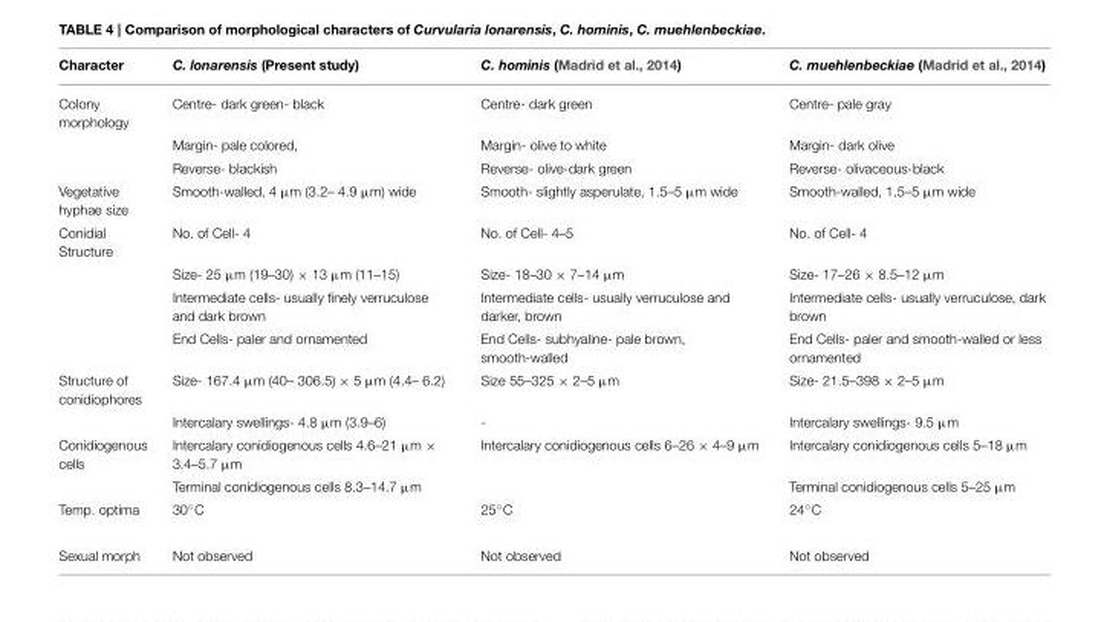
<table><thead><tr><td>Character</td><td>C. lonarensis (Present study)</td><td>C. hominis (Madrid et al., 2014)</td><td>C. muehlenbeckiae (Madrid et al., 2014)</td></tr></thead><tbody><tr><td rowspan="3">Colony morphology</td><td>Centre- dark green- black</td><td>Centre- dark green</td><td>Centre- pale gray</td></tr><tr><td>Margin- pale colored,</td><td>Margin- olive to white</td><td>Margin- dark olive</td></tr><tr><td>Reverse- blackish</td><td>Reverse- olive-dark green</td><td>Reverse- olivaceous-black</td></tr><tr><td>Vegetative hyphae size</td><td>Smooth-walled, 4 µm (3.2– 4.9 µm) wide</td><td>Smooth- slightly asperulate, 1.5–5 µm wide</td><td>Smooth-walled, 1.5–5 µm wide</td></tr><tr><td rowspan="4">Conidial Structure</td><td>No. of Cell- 4</td><td>No. of Cell- 4–5</td><td>No. of Cell- 4</td></tr><tr><td>Size- 25 µm (19–30) × 13 µm (11–15)</td><td>Size- 18–30 × 7–14 µm</td><td>Size- 17–26 × 8.5–12 µm</td></tr><tr><td>Intermediate cells- usually finely verruculose and dark brown</td><td>Intermediate cells- usually verruculose and darker, brown</td><td>Intermediate cells- usually verruculose, dark brown</td></tr><tr><td>End Cells- paler and ornamented</td><td>End Cells- subhyaline- pale brown, smooth-walled</td><td>End Cells- paler and smooth-walled or less ornamented</td></tr><tr><td rowspan="2">Structure of conidiophores</td><td>Size- 167.4 µm (40– 306.5) × 5 µm (4.4– 6.2)</td><td>Size 55–325 × 2–5 µm</td><td>Size- 21.5–398 × 2–5 µm</td></tr><tr><td>Intercalary swellings- 4.8 µm (3.9–6)</td><td>-</td><td>Intercalary swellings- 9.5 µm</td></tr><tr><td rowspan="2">Conidiogenous cells</td><td>Intercalary conidiogenous cells 4.6–21 µm × 3.4–5.7 µm</td><td>Intercalary conidiogenous cells 6–26 × 4–9 µm</td><td>Intercalary conidiogenous cells 5–18 µm</td></tr><tr><td>Terminal conidiogenous cells 8.3–14.7 µm</td><td></td><td>Terminal conidiogenous cells 5–25 µm</td></tr><tr><td>Temp. optima</td><td>30◦C</td><td>25◦C</td><td>24◦C</td></tr><tr><td>Sexual morph</td><td>Not observed</td><td>Not observed</td><td>Not observed</td></tr></tbody></table>